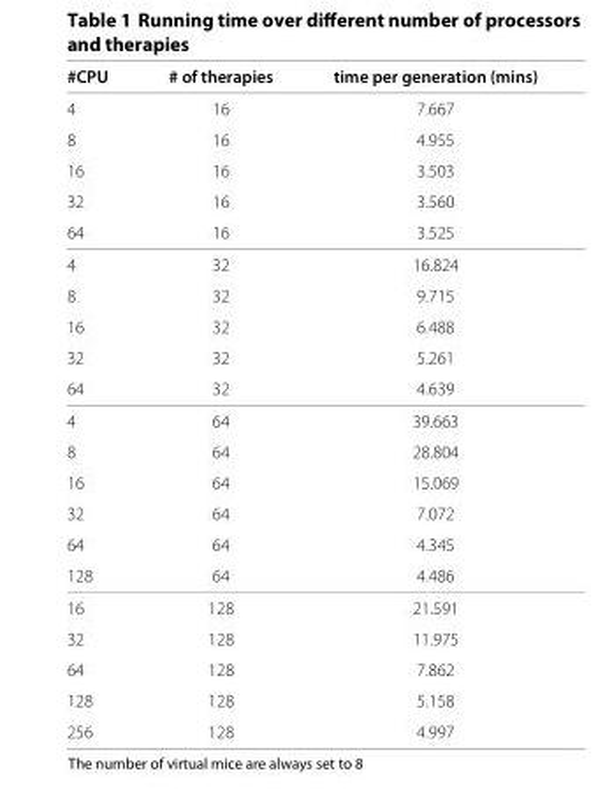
<table><thead><tr><td>#CPU</td><td># of therapies</td><td>time per generation (mins)</td></tr></thead><tbody><tr><td>4</td><td>16</td><td>7.667</td></tr><tr><td>8</td><td>16</td><td>4.955</td></tr><tr><td>16</td><td>16</td><td>3.503</td></tr><tr><td>32</td><td>16</td><td>3.560</td></tr><tr><td>64</td><td>16</td><td>3.525</td></tr><tr><td>4</td><td>32</td><td>16.824</td></tr><tr><td>8</td><td>32</td><td>9.715</td></tr><tr><td>16</td><td>32</td><td>6.488</td></tr><tr><td>32</td><td>32</td><td>5.261</td></tr><tr><td>64</td><td>32</td><td>4.639</td></tr><tr><td>4</td><td>64</td><td>39.663</td></tr><tr><td>8</td><td>64</td><td>28.804</td></tr><tr><td>16</td><td>64</td><td>15.069</td></tr><tr><td>32</td><td>64</td><td>7.072</td></tr><tr><td>64</td><td>64</td><td>4.345</td></tr><tr><td>128</td><td>64</td><td>4.486</td></tr><tr><td>16</td><td>128</td><td>21.591</td></tr><tr><td>32</td><td>128</td><td>11.975</td></tr><tr><td>64</td><td>128</td><td>7.862</td></tr><tr><td>128</td><td>128</td><td>5.158</td></tr><tr><td>256</td><td>128</td><td>4.997</td></tr></tbody></table>